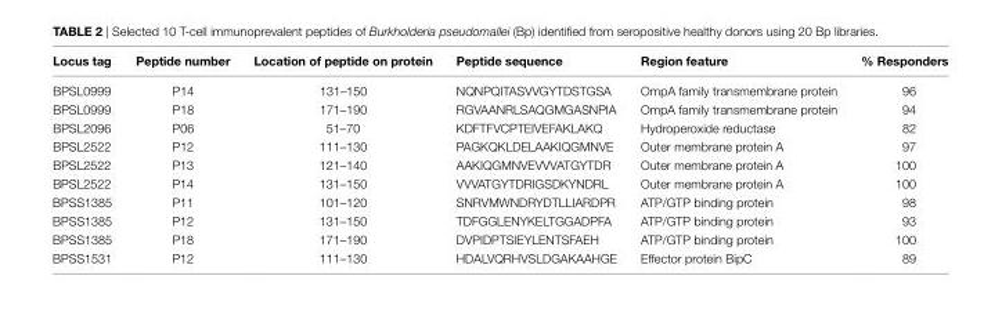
<table><thead><tr><td>locus tag</td><td>Peptide number</td><td>location of peptide on protein</td><td>Peptide sequence</td><td>region feature</td><td>% responders</td></tr></thead><tbody><tr><td>BPSL0999</td><td>P14</td><td>131–150</td><td>NQNPQITASVVGYTDSTGSA</td><td>OmpA family transmembrane protein</td><td>96</td></tr><tr><td>BPSL0999</td><td>P18</td><td>171–190</td><td>RGVAANRLSAQGMGASNPIA</td><td>OmpA family transmembrane protein</td><td>94</td></tr><tr><td>BPSL2096</td><td>P06</td><td>51–70</td><td>KDFTFVCPTEIVEFAKLAKQ</td><td>Hydroperoxide reductase</td><td>82</td></tr><tr><td>BPSL2522</td><td>P12</td><td>111–130</td><td>PAGKQKLDELAAKIQGMNVE</td><td>Outer membrane protein A</td><td>97</td></tr><tr><td>BPSL2522</td><td>P13</td><td>121–140</td><td>AAKIQGMNVEVVVATGYTDR</td><td>Outer membrane protein A</td><td>100</td></tr><tr><td>BPSL2522</td><td>P14</td><td>131–150</td><td>VVVATGYTDRIGSDKYNDRL</td><td>Outer membrane protein A</td><td>100</td></tr><tr><td>BPSS1385</td><td>P11</td><td>101–120</td><td>SNRVMWNDRYDTLLIARDPR</td><td>ATP/GTP binding protein</td><td>98</td></tr><tr><td>BPSS1385</td><td>P12</td><td>131–150</td><td>TDFGGLENYKELTGGADPFA</td><td>ATP/GTP binding protein</td><td>93</td></tr><tr><td>BPSS1385</td><td>P18</td><td>171–190</td><td>DVPIDPTSIEYLENTSFAEH</td><td>ATP/GTP binding protein</td><td>100</td></tr><tr><td>BPSS1531</td><td>P12</td><td>111–130</td><td>HDALVQRHVSLDGAKAAHGE</td><td>Effector protein BipC</td><td>89</td></tr></tbody></table>